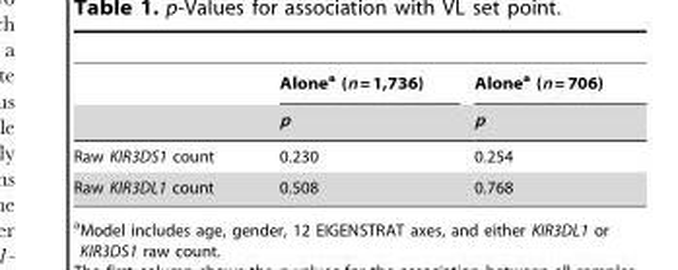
<table><thead><tr><td rowspan="2"></td><td rowspan="2">Alone<sup>a</sup> (n = 1,736) p</td><td rowspan="2">Alone<sup>a</sup> (n = 706) p</td></tr><tr></tr></thead><tbody><tr><td>Raw KIR3DS1 count</td><td>0.230</td><td>0.254</td></tr><tr><td>Raw KIR3DL1 count</td><td>0.508</td><td>0.768</td></tr></tbody></table>